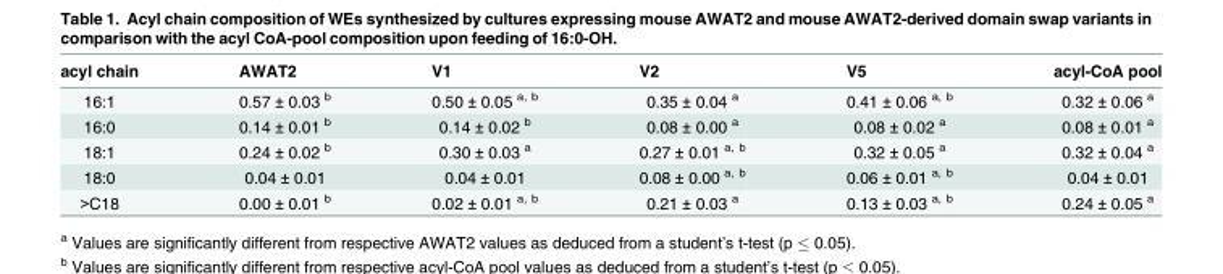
<table><thead><tr><td>acyl chain</td><td>AWAT2</td><td>V1</td><td>V2</td><td>V5</td><td>acyl-CoA pool</td></tr></thead><tbody><tr><td>16:1</td><td>0.57 ± 0.03 <sup>b</sup></td><td>0.50 ± 0.05 <sup>a, b</sup></td><td>0.35 ± 0.04 <sup>a</sup></td><td>0.41 ± 0.06 <sup>a, b</sup></td><td>0.32 ± 0.06 <sup>a</sup></td></tr><tr><td>16:0</td><td>0.14 ± 0.01 <sup>b</sup></td><td>0.14 ± 0.02 <sup>b</sup></td><td>0.08 ± 0.00 <sup>a</sup></td><td>0.08 ± 0.02 <sup>a</sup></td><td>0.08 ± 0.01 <sup>a</sup></td></tr><tr><td>18:1</td><td>0.24 ± 0.02 <sup>b</sup></td><td>0.30 ± 0.03 <sup>a</sup></td><td>0.27 ± 0.01 <sup>a, b</sup></td><td>0.32 ± 0.05 <sup>a</sup></td><td>0.32 ± 0.04 <sup>a</sup></td></tr><tr><td>18:0</td><td>0.04 ± 0.01</td><td>0.04 ± 0.01</td><td>0.08 ± 0.00 <sup>a, b</sup></td><td>0.06 ± 0.01 <sup>a, b</sup></td><td>0.04 ± 0.01</td></tr><tr><td>&gt;C18</td><td>0.00 ± 0.01 <sup>b</sup></td><td>0.02 ± 0.01 <sup>a, b</sup></td><td>0.21 ± 0.03 <sup>a</sup></td><td>0.13 ± 0.03 <sup>a, b</sup></td><td>0.24 ± 0.05 <sup>a</sup></td></tr></tbody></table>